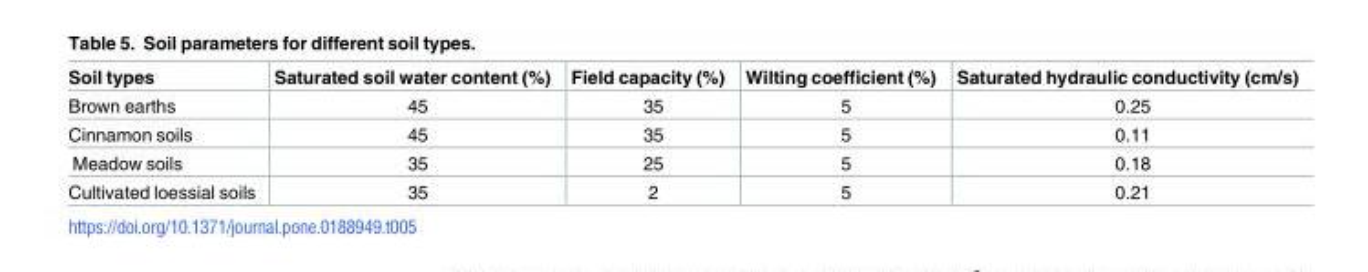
<table><thead><tr><td>Soil types</td><td>Saturated soil water content (%)</td><td>Field capacity (%)</td><td>Wilting coefficient (%)</td><td>Saturated hydraulic conductivity (cm/s)</td></tr></thead><tbody><tr><td>Brown earths</td><td>45</td><td>35</td><td>5</td><td>0.25</td></tr><tr><td>Cinnamon soils</td><td>45</td><td>35</td><td>5</td><td>0.11</td></tr><tr><td>Meadow soils</td><td>35</td><td>25</td><td>5</td><td>0.18</td></tr><tr><td>Cultivated loessial soils</td><td>35</td><td>2</td><td>5</td><td>0.21</td></tr></tbody></table>